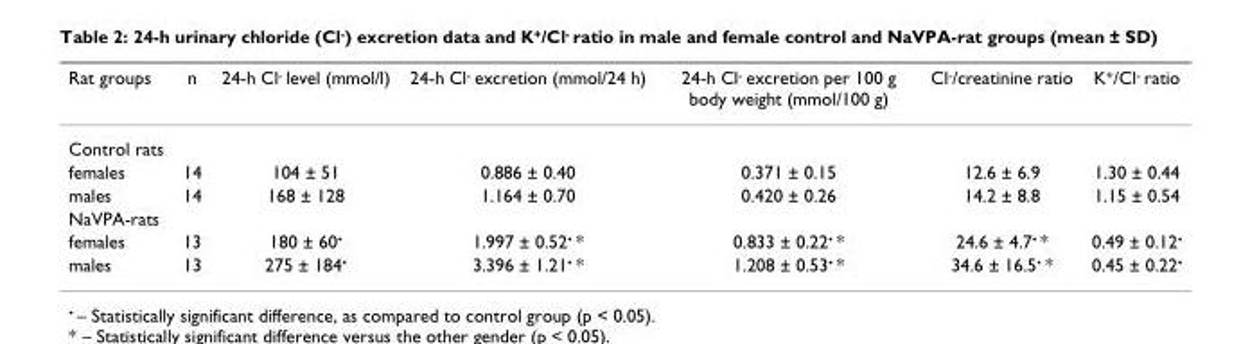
<table><thead><tr><td>Rat groups</td><td>n</td><td>24-h Cl<sup>-</sup> level (mmol/l)</td><td>24-h Cl<sup>-</sup> excretion (mmol/24 h)</td><td>24-h Cl<sup>-</sup> excretion per 100 g body weight (mmol/100 g)</td><td>Cl<sup>-</sup>/creatinine ratio</td><td>K<sup>+</sup>/Cl<sup>-</sup> ratio</td></tr></thead><tbody><tr><td colspan="7">Control rats</td></tr><tr><td>females</td><td>14</td><td>104 ± 51</td><td>0.886 ± 0.40</td><td>0.371 ± 0.15</td><td>12.6 ± 6.9</td><td>1.30 ± 0.44</td></tr><tr><td>males</td><td>14</td><td>168 ± 128</td><td>1.164 ± 0.70</td><td>0.420 ± 0.26</td><td>14.2 ± 8.8</td><td>1.15 ± 0.54</td></tr><tr><td colspan="7">NaVPA-rats</td></tr><tr><td>females</td><td>13</td><td>180 ± 60<sup>•</sup></td><td>1.997 ± 0.52<sup>•</sup> *</td><td>0.833 ± 0.22<sup>•</sup> *</td><td>24.6 ± 4.7<sup>•</sup> *</td><td>0.49 ± 0.12<sup>•</sup></td></tr><tr><td>males</td><td>13</td><td>275 ± 184<sup>•</sup></td><td>3.396 ± 1.21<sup>•</sup> *</td><td>1.208 ± 0.53<sup>•</sup> *</td><td>34.6 ± 16.5<sup>•</sup> *</td><td>0.45 ± 0.22<sup>•</sup></td></tr></tbody></table>